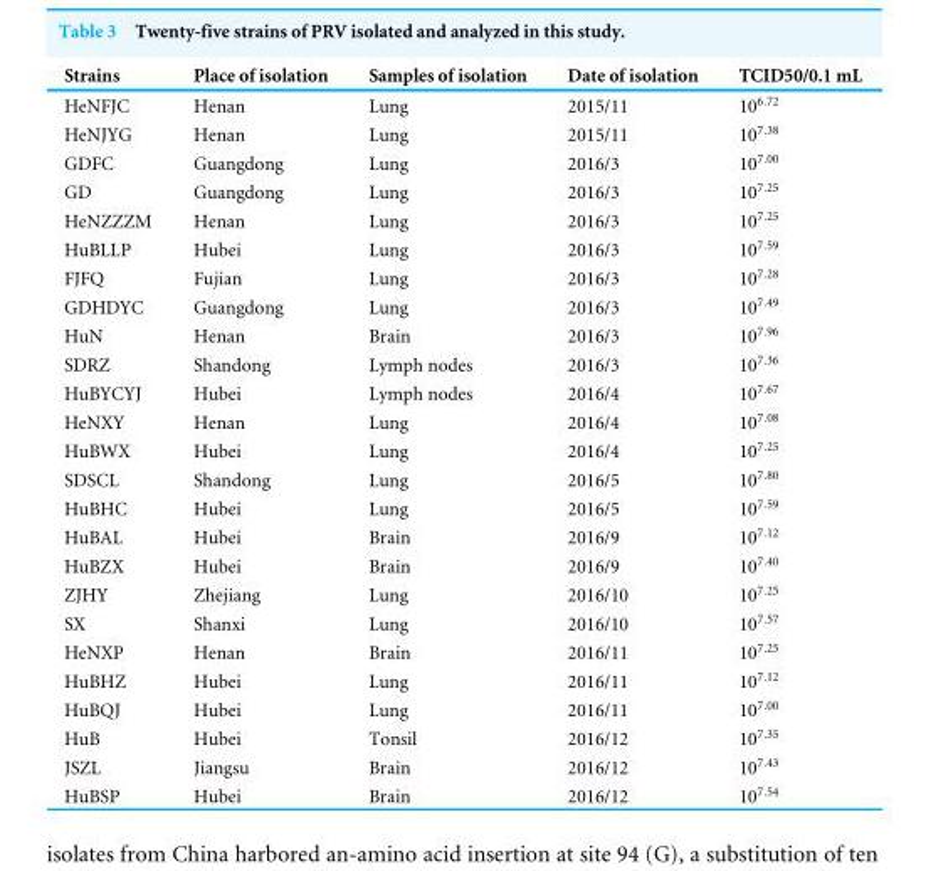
<table><thead><tr><td>Strains</td><td>Place of isolation</td><td>Samples of isolation</td><td>Date of isolation</td><td>TCID50/0.1 mL</td></tr></thead><tbody><tr><td>HeNFJC</td><td>Henan</td><td>Lung</td><td>2015/11</td><td>10<sup>6.72</sup></td></tr><tr><td>HeNJYG</td><td>Henan</td><td>Lung</td><td>2015/11</td><td>10<sup>7.38</sup></td></tr><tr><td>GDFC</td><td>Guangdong</td><td>Lung</td><td>2016/3</td><td>10<sup>7.00</sup></td></tr><tr><td>GD</td><td>Guangdong</td><td>Lung</td><td>2016/3</td><td>10<sup>7.25</sup></td></tr><tr><td>HeNZZZM</td><td>Henan</td><td>Lung</td><td>2016/3</td><td>10<sup>7.25</sup></td></tr><tr><td>HuBLLP</td><td>Hubei</td><td>Lung</td><td>2016/3</td><td>10<sup>7.59</sup></td></tr><tr><td>FJFQ</td><td>Fujian</td><td>Lung</td><td>2016/3</td><td>10<sup>7.28</sup></td></tr><tr><td>GDHDYC</td><td>Guangdong</td><td>Lung</td><td>2016/3</td><td>10<sup>7.49</sup></td></tr><tr><td>HuN</td><td>Henan</td><td>Brain</td><td>2016/3</td><td>10<sup>7.96</sup></td></tr><tr><td>SDRZ</td><td>Shandong</td><td>Lymph nodes</td><td>2016/3</td><td>10<sup>7.36</sup></td></tr><tr><td>HuBYCYJ</td><td>Hubei</td><td>Lymph nodes</td><td>2016/4</td><td>10<sup>7.67</sup></td></tr><tr><td>HeNXY</td><td>Henan</td><td>Lung</td><td>2016/4</td><td>10<sup>7.08</sup></td></tr><tr><td>HuBWX</td><td>Hubei</td><td>Lung</td><td>2016/4</td><td>10<sup>7.25</sup></td></tr><tr><td>SDSCL</td><td>Shandong</td><td>Lung</td><td>2016/5</td><td>10<sup>7.80</sup></td></tr><tr><td>HuBHC</td><td>Hubei</td><td>Lung</td><td>2016/5</td><td>10<sup>7.59</sup></td></tr><tr><td>HuBAL</td><td>Hubei</td><td>Brain</td><td>2016/9</td><td>10<sup>7.12</sup></td></tr><tr><td>HuBZX</td><td>Hubei</td><td>Brain</td><td>2016/9</td><td>10<sup>7.40</sup></td></tr><tr><td>ZJHY</td><td>Zhejiang</td><td>Lung</td><td>2016/10</td><td>10<sup>7.25</sup></td></tr><tr><td>SX</td><td>Shanxi</td><td>Lung</td><td>2016/10</td><td>10<sup>7.57</sup></td></tr><tr><td>HeNXP</td><td>Henan</td><td>Brain</td><td>2016/11</td><td>10<sup>7.25</sup></td></tr><tr><td>HuBHZ</td><td>Hubei</td><td>Lung</td><td>2016/11</td><td>10<sup>7.12</sup></td></tr><tr><td>HuBQJ</td><td>Hubei</td><td>Lung</td><td>2016/11</td><td>10<sup>7.00</sup></td></tr><tr><td>HuB</td><td>Hubei</td><td>Tonsil</td><td>2016/12</td><td>10<sup>7.35</sup></td></tr><tr><td>JSZL</td><td>Jiangsu</td><td>Brain</td><td>2016/12</td><td>10<sup>7.43</sup></td></tr><tr><td>HuBSP</td><td>Hubei</td><td>Brain</td><td>2016/12</td><td>10<sup>7.54</sup></td></tr></tbody></table>